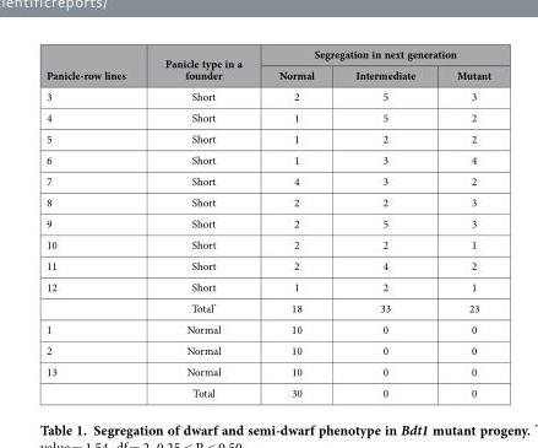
<table><thead><tr><td rowspan="2">Panicle-row lines</td><td rowspan="2">Panicle type in a founder</td><td colspan="3">Segregation in next generation</td></tr><tr><td>Normal</td><td>Intermediate</td><td>Mutant</td></tr></thead><tbody><tr><td>3</td><td>Short</td><td>2</td><td>5</td><td>3</td></tr><tr><td>4</td><td>Short</td><td>1</td><td>5</td><td>2</td></tr><tr><td>5</td><td>Short</td><td>1</td><td>2</td><td>2</td></tr><tr><td>6</td><td>Short</td><td>1</td><td>3</td><td>4</td></tr><tr><td>7</td><td>Short</td><td>4</td><td>3</td><td>2</td></tr><tr><td>8</td><td>Short</td><td>2</td><td>2</td><td>3</td></tr><tr><td>9</td><td>Short</td><td>2</td><td>5</td><td>3</td></tr><tr><td>10</td><td>Short</td><td>2</td><td>2</td><td>1</td></tr><tr><td>11</td><td>Short</td><td>2</td><td>4</td><td>2</td></tr><tr><td rowspan="2">12</td><td>Short</td><td>1</td><td>2</td><td>1</td></tr><tr><td>Total*</td><td>18</td><td>33</td><td>23</td></tr><tr><td>1</td><td>Normal</td><td>10</td><td>0</td><td>0</td></tr><tr><td>2</td><td>Normal</td><td>10</td><td>0</td><td>0</td></tr><tr><td rowspan="2">13</td><td>Normal</td><td>10</td><td>0</td><td>0</td></tr><tr><td>Total</td><td>30</td><td>0</td><td>0</td></tr></tbody></table>